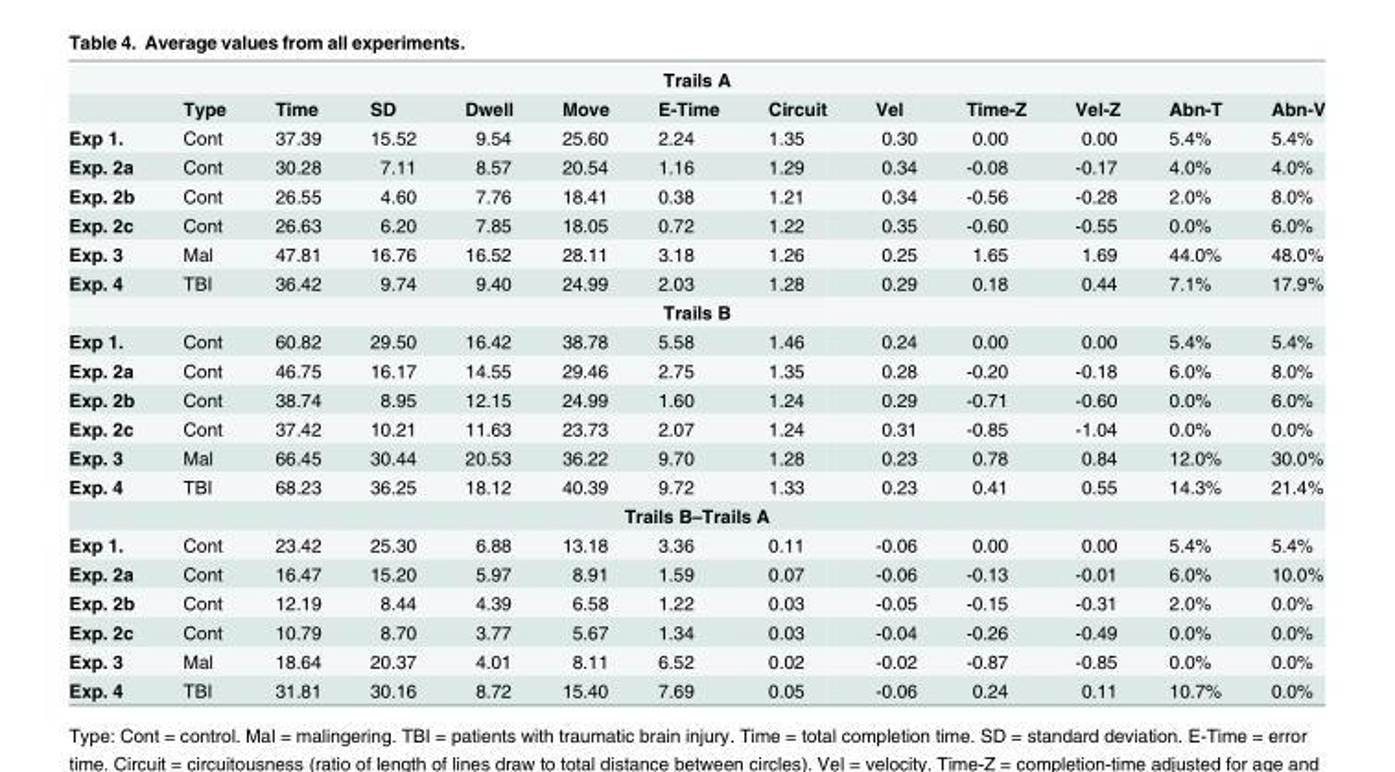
<table><tbody><tr><td colspan="13">Trails A</td></tr><tr><td></td><td>Type</td><td>Time</td><td>SD</td><td>Dwell</td><td>Move</td><td>E-Time</td><td>Circuit</td><td>Vel</td><td>Time-Z</td><td>Vel-Z</td><td>Abn-T</td><td>Abn-V</td></tr><tr><td>Exp 1.</td><td>Cont</td><td>37.39</td><td>15.52</td><td>9.54</td><td>25.60</td><td>2.24</td><td>1.35</td><td>0.30</td><td>0.00</td><td>0.00</td><td>5.4%</td><td>5.4%</td></tr><tr><td>Exp. 2a</td><td>Cont</td><td>30.28</td><td>7.11</td><td>8.57</td><td>20.54</td><td>1.16</td><td>1.29</td><td>0.34</td><td>-0.08</td><td>-0.17</td><td>4.0%</td><td>4.0%</td></tr><tr><td>Exp. 2b</td><td>Cont</td><td>26.55</td><td>4.60</td><td>7.76</td><td>18.41</td><td>0.38</td><td>1.21</td><td>0.34</td><td>-0.56</td><td>-0.28</td><td>2.0%</td><td>8.0%</td></tr><tr><td>Exp. 2c</td><td>Cont</td><td>26.63</td><td>6.20</td><td>7.85</td><td>18.05</td><td>0.72</td><td>1.22</td><td>0.35</td><td>-0.60</td><td>-0.55</td><td>0.0%</td><td>6.0%</td></tr><tr><td>Exp. 3</td><td>Mal</td><td>47.81</td><td>16.76</td><td>16.52</td><td>28.11</td><td>3.18</td><td>1.26</td><td>0.25</td><td>1.65</td><td>1.69</td><td>44.0%</td><td>48.0%</td></tr><tr><td>Exp. 4</td><td>TBI</td><td>36.42</td><td>9.74</td><td>9.40</td><td>24.99</td><td>2.03</td><td>1.28</td><td>0.29</td><td>0.18</td><td>0.44</td><td>7.1%</td><td>17.9%</td></tr><tr><td colspan="13">Trails B</td></tr><tr><td>Exp 1.</td><td>Cont</td><td>60.82</td><td>29.50</td><td>16.42</td><td>38.78</td><td>5.58</td><td>1.46</td><td>0.24</td><td>0.00</td><td>0.00</td><td>5.4%</td><td>5.4%</td></tr><tr><td>Exp. 2a</td><td>Cont</td><td>46.75</td><td>16.17</td><td>14.55</td><td>29.46</td><td>2.75</td><td>1.35</td><td>0.28</td><td>-0.20</td><td>-0.18</td><td>6.0%</td><td>8.0%</td></tr><tr><td>Exp. 2b</td><td>Cont</td><td>38.74</td><td>8.95</td><td>12.15</td><td>24.99</td><td>1.60</td><td>1.24</td><td>0.29</td><td>-0.71</td><td>-0.60</td><td>0.0%</td><td>6.0%</td></tr><tr><td>Exp. 2c</td><td>Cont</td><td>37.42</td><td>10.21</td><td>11.63</td><td>23.73</td><td>2.07</td><td>1.24</td><td>0.31</td><td>-0.85</td><td>-1.04</td><td>0.0%</td><td>0.0%</td></tr><tr><td>Exp. 3</td><td>Mal</td><td>66.45</td><td>30.44</td><td>20.53</td><td>36.22</td><td>9.70</td><td>1.28</td><td>0.23</td><td>0.78</td><td>0.84</td><td>12.0%</td><td>30.0%</td></tr><tr><td>Exp. 4</td><td>TBI</td><td>68.23</td><td>36.25</td><td>18.12</td><td>40.39</td><td>9.72</td><td>1.33</td><td>0.23</td><td>0.41</td><td>0.55</td><td>14.3%</td><td>21.4%</td></tr><tr><td colspan="13">Trails B–Trails A</td></tr><tr><td>Exp 1.</td><td>Cont</td><td>23.42</td><td>25.30</td><td>6.88</td><td>13.18</td><td>3.36</td><td>0.11</td><td>-0.06</td><td>0.00</td><td>0.00</td><td>5.4%</td><td>5.4%</td></tr><tr><td>Exp. 2a</td><td>Cont</td><td>16.47</td><td>15.20</td><td>5.97</td><td>8.91</td><td>1.59</td><td>0.07</td><td>-0.06</td><td>-0.13</td><td>-0.01</td><td>6.0%</td><td>10.0%</td></tr><tr><td>Exp. 2b</td><td>Cont</td><td>12.19</td><td>8.44</td><td>4.39</td><td>6.58</td><td>1.22</td><td>0.03</td><td>-0.05</td><td>-0.15</td><td>-0.31</td><td>2.0%</td><td>0.0%</td></tr><tr><td>Exp. 2c</td><td>Cont</td><td>10.79</td><td>8.70</td><td>3.77</td><td>5.67</td><td>1.34</td><td>0.03</td><td>-0.04</td><td>-0.26</td><td>-0.49</td><td>0.0%</td><td>0.0%</td></tr><tr><td>Exp. 3</td><td>Mal</td><td>18.64</td><td>20.37</td><td>4.01</td><td>8.11</td><td>6.52</td><td>0.02</td><td>-0.02</td><td>-0.87</td><td>-0.85</td><td>0.0%</td><td>0.0%</td></tr><tr><td>Exp. 4</td><td>TBI</td><td>31.81</td><td>30.16</td><td>8.72</td><td>15.40</td><td>7.69</td><td>0.05</td><td>-0.06</td><td>0.24</td><td>0.11</td><td>10.7%</td><td>0.0%</td></tr></tbody></table>